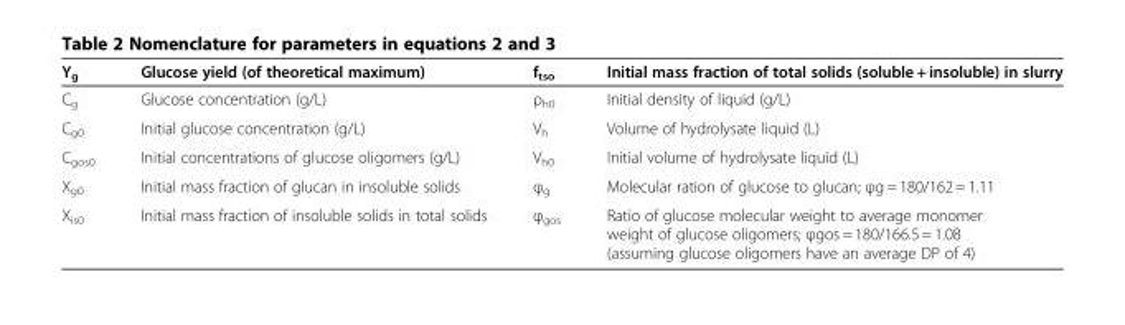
<table><thead><tr><td>Y<sub>g</sub></td><td>Glucose yield (of theoretical maximum)</td><td>f<sub>tso</sub></td><td>Initial mass fraction of total solids (soluble + insoluble) in slurry</td></tr></thead><tbody><tr><td>C<sub>g</sub></td><td>Glucose concentration (g/L)</td><td>ρ<sub>h0</sub></td><td>Initial density of liquid (g/L)</td></tr><tr><td>C<sub>g0</sub></td><td>Initial glucose concentration (g/L)</td><td>V<sub>h</sub></td><td>Volume of hydrolysate liquid (L)</td></tr><tr><td>C<sub>gos0</sub></td><td>Initial concentrations of glucose oligomers (g/L)</td><td>V<sub>h0</sub></td><td>Initial volume of hydrolysate liquid (L)</td></tr><tr><td>X<sub>g0</sub></td><td>Initial mass fraction of glucan in insoluble solids</td><td>φ<sub>g</sub></td><td>Molecular ration of glucose to glucan; φg = 180/162 = 1.11</td></tr><tr><td>X<sub>is0</sub></td><td>Initial mass fraction of insoluble solids in total solids</td><td>φ<sub>gos</sub></td><td>Ratio of glucose molecular weight to average monomer weight of glucose oligomers; φgos = 180/166.5 = 1.08 (assuming glucose oligomers have an average DP of 4)</td></tr></tbody></table>